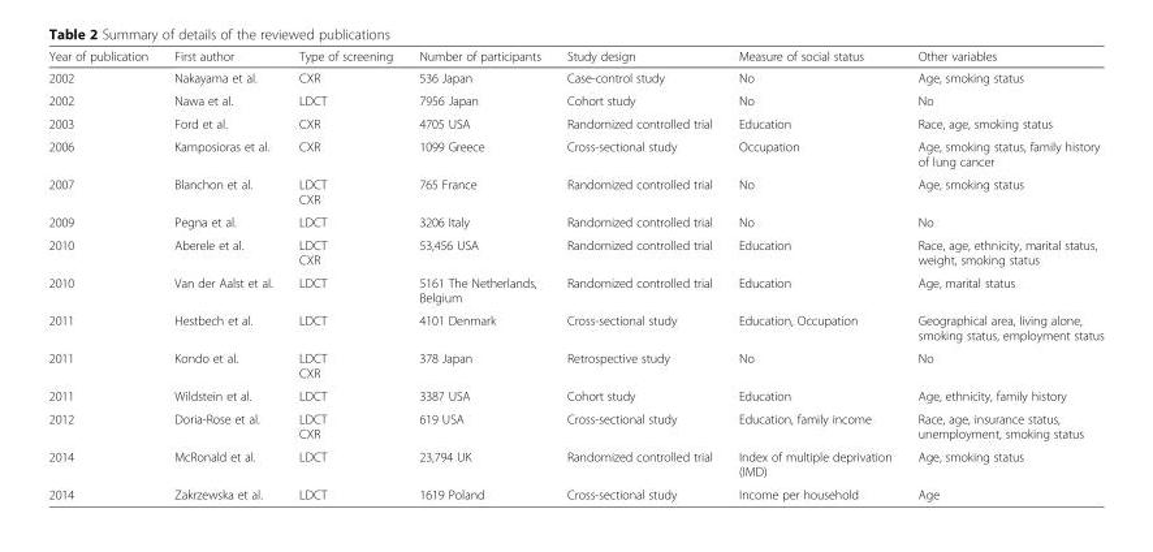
<table><thead><tr><td>Year of publication</td><td>First author</td><td>Type of screening</td><td>Number of participants</td><td>Study design</td><td>Measure of social status</td><td>Other variables</td></tr></thead><tbody><tr><td>2002</td><td>Nakayama et al.</td><td>CXR</td><td>536 Japan</td><td>Case-control study</td><td>No</td><td>Age, smoking status</td></tr><tr><td>2002</td><td>Nawa et al.</td><td>LDCT</td><td>7956 Japan</td><td>Cohort study</td><td>No</td><td>No</td></tr><tr><td>2003</td><td>Ford et al.</td><td>CXR</td><td>4705 USA</td><td>Randomized controlled trial</td><td>Education</td><td>Race, age, smoking status</td></tr><tr><td>2006</td><td>Kamposioras et al.</td><td>CXR</td><td>1099 Greece</td><td>Cross-sectional study</td><td>Occupation</td><td>Age, smoking status, family history of lung cancer</td></tr><tr><td>2007</td><td>Blanchon et al.</td><td>LDCT CXR</td><td>765 France</td><td>Randomized controlled trial</td><td>No</td><td>Age, smoking status</td></tr><tr><td>2009</td><td>Pegna et al.</td><td>LDCT</td><td>3206 Italy</td><td>Randomized controlled trial</td><td>No</td><td>No</td></tr><tr><td>2010</td><td>Aberele et al.</td><td>LDCT CXR</td><td>53,456 USA</td><td>Randomized controlled trial</td><td>Education</td><td>Race, age, ethnicity, marital status, weight, smoking status</td></tr><tr><td>2010</td><td>Van der Aalst et al.</td><td>LDCT</td><td>5161 The Netherlands, Belgium</td><td>Randomized controlled trial</td><td>Education</td><td>Age, marital status</td></tr><tr><td>2011</td><td>Hestbech et al.</td><td>LDCT</td><td>4101 Denmark</td><td>Cross-sectional study</td><td>Education, Occupation</td><td>Geographical area, living alone, smoking status, employment status</td></tr><tr><td>2011</td><td>Kondo et al.</td><td>LDCT CXR</td><td>378 Japan</td><td>Retrospective study</td><td>No</td><td>No</td></tr><tr><td>2011</td><td>Wildstein et al.</td><td>LDCT</td><td>3387 USA</td><td>Cohort study</td><td>Education</td><td>Age, ethnicity, family history</td></tr><tr><td>2012</td><td>Doria-Rose et al.</td><td>LDCT CXR</td><td>619 USA</td><td>Cross-sectional study</td><td>Education, family income</td><td>Race, age, insurance status, unemployment, smoking status</td></tr><tr><td>2014</td><td>McRonald et al.</td><td>LDCT</td><td>23,794 UK</td><td>Randomized controlled trial</td><td>Index of multiple deprivation (IMD)</td><td>Age, smoking status</td></tr><tr><td>2014</td><td>Zakrzewska et al.</td><td>LDCT</td><td>1619 Poland</td><td>Cross-sectional study</td><td>Income per household</td><td>Age</td></tr></tbody></table>